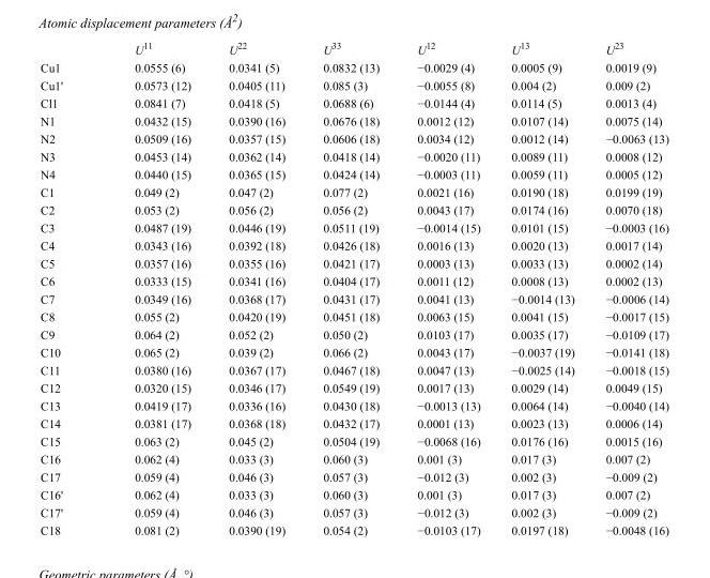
<table><thead><tr><td></td><td>U<sup>11</sup></td><td>U<sup>22</sup></td><td>U<sup>33</sup></td><td>U<sup>12</sup></td><td>U<sup>13</sup></td><td>U<sup>23</sup></td></tr></thead><tbody><tr><td>Cu1</td><td>0.0555 (6)</td><td>0.0341 (5)</td><td>0.0832 (13)</td><td>−0.0029 (4)</td><td>0.0005 (9)</td><td>0.0019 (9)</td></tr><tr><td>Cu1&#x27;</td><td>0.0573 (12)</td><td>0.0405 (11)</td><td>0.085 (3)</td><td>−0.0055 (8)</td><td>0.004 (2)</td><td>0.009 (2)</td></tr><tr><td>Cl1</td><td>0.0841 (7)</td><td>0.0418 (5)</td><td>0.0688 (6)</td><td>−0.0144 (4)</td><td>0.0114 (5)</td><td>0.0013 (4)</td></tr><tr><td>N1</td><td>0.0432 (15)</td><td>0.0390 (16)</td><td>0.0676 (18)</td><td>0.0012 (12)</td><td>0.0107 (14)</td><td>0.0075 (14)</td></tr><tr><td>N2</td><td>0.0509 (16)</td><td>0.0357 (15)</td><td>0.0606 (18)</td><td>0.0034 (12)</td><td>0.0012 (14)</td><td>−0.0063 (13)</td></tr><tr><td>N3</td><td>0.0453 (14)</td><td>0.0362 (14)</td><td>0.0418 (14)</td><td>−0.0020 (11)</td><td>0.0089 (11)</td><td>0.0008 (12)</td></tr><tr><td>N4</td><td>0.0440 (15)</td><td>0.0365 (15)</td><td>0.0424 (14)</td><td>−0.0003 (11)</td><td>0.0059 (11)</td><td>0.0005 (12)</td></tr><tr><td>C1</td><td>0.049 (2)</td><td>0.047 (2)</td><td>0.077 (2)</td><td>0.0021 (16)</td><td>0.0190 (18)</td><td>0.0199 (19)</td></tr><tr><td>C2</td><td>0.053 (2)</td><td>0.056 (2)</td><td>0.056 (2)</td><td>0.0043 (17)</td><td>0.0174 (16)</td><td>0.0070 (18)</td></tr><tr><td>C3</td><td>0.0487 (19)</td><td>0.0446 (19)</td><td>0.0511 (19)</td><td>−0.0014 (15)</td><td>0.0101 (15)</td><td>−0.0003 (16)</td></tr><tr><td>C4</td><td>0.0343 (16)</td><td>0.0392 (18)</td><td>0.0426 (18)</td><td>0.0016 (13)</td><td>0.0020 (13)</td><td>0.0017 (14)</td></tr><tr><td>C5</td><td>0.0357 (16)</td><td>0.0355 (16)</td><td>0.0421 (17)</td><td>0.0003 (13)</td><td>0.0033 (13)</td><td>0.0002 (14)</td></tr><tr><td>C6</td><td>0.0333 (15)</td><td>0.0341 (16)</td><td>0.0404 (17)</td><td>0.0011 (12)</td><td>0.0008 (13)</td><td>0.0002 (13)</td></tr><tr><td>C7</td><td>0.0349 (16)</td><td>0.0368 (17)</td><td>0.0431 (17)</td><td>0.0041 (13)</td><td>−0.0014 (13)</td><td>−0.0006 (14)</td></tr><tr><td>C8</td><td>0.055 (2)</td><td>0.0420 (19)</td><td>0.0451 (18)</td><td>0.0063 (15)</td><td>0.0041 (15)</td><td>−0.0017 (15)</td></tr><tr><td>C9</td><td>0.064 (2)</td><td>0.052 (2)</td><td>0.050 (2)</td><td>0.0103 (17)</td><td>0.0035 (17)</td><td>−0.0109 (17)</td></tr><tr><td>C10</td><td>0.065 (2)</td><td>0.039 (2)</td><td>0.066 (2)</td><td>0.0043 (17)</td><td>−0.0037 (19)</td><td>−0.0141 (18)</td></tr><tr><td>C11</td><td>0.0380 (16)</td><td>0.0367 (17)</td><td>0.0467 (18)</td><td>0.0047 (13)</td><td>−0.0025 (14)</td><td>−0.0018 (15)</td></tr><tr><td>C12</td><td>0.0320 (15)</td><td>0.0346 (17)</td><td>0.0549 (19)</td><td>0.0017 (13)</td><td>0.0029 (14)</td><td>0.0049 (15)</td></tr><tr><td>C13</td><td>0.0419 (17)</td><td>0.0336 (16)</td><td>0.0430 (18)</td><td>−0.0013 (13)</td><td>0.0064 (14)</td><td>−0.0040 (14)</td></tr><tr><td>C14</td><td>0.0381 (17)</td><td>0.0368 (18)</td><td>0.0432 (17)</td><td>0.0001 (13)</td><td>0.0023 (13)</td><td>0.0006 (14)</td></tr><tr><td>C15</td><td>0.063 (2)</td><td>0.045 (2)</td><td>0.0504 (19)</td><td>−0.0068 (16)</td><td>0.0176 (16)</td><td>0.0015 (16)</td></tr><tr><td>C16</td><td>0.062 (4)</td><td>0.033 (3)</td><td>0.060 (3)</td><td>0.001 (3)</td><td>0.017 (3)</td><td>0.007 (2)</td></tr><tr><td>C17</td><td>0.059 (4)</td><td>0.046 (3)</td><td>0.057 (3)</td><td>−0.012 (3)</td><td>0.002 (3)</td><td>−0.009 (2)</td></tr><tr><td>C16&#x27;</td><td>0.062 (4)</td><td>0.033 (3)</td><td>0.060 (3)</td><td>0.001 (3)</td><td>0.017 (3)</td><td>0.007 (2)</td></tr><tr><td>C17&#x27;</td><td>0.059 (4)</td><td>0.046 (3)</td><td>0.057 (3)</td><td>−0.012 (3)</td><td>0.002 (3)</td><td>−0.009 (2)</td></tr><tr><td>C18</td><td>0.081 (2)</td><td>0.0390 (19)</td><td>0.054 (2)</td><td>−0.0103 (17)</td><td>0.0197 (18)</td><td>−0.0048 (16)</td></tr></tbody></table>